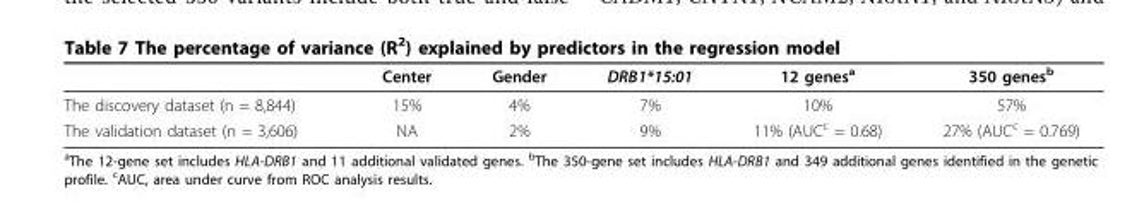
<table><thead><tr><td></td><td>Center</td><td>Gender</td><td>DRB1*15:01</td><td>12 genes<sup>a</sup></td><td>350 genes<sup>b</sup></td></tr></thead><tbody><tr><td>The discovery dataset (n = 8,844)</td><td>15%</td><td>4%</td><td>7%</td><td>10%</td><td>57%</td></tr><tr><td>The validation dataset (n = 3,606)</td><td>NA</td><td>2%</td><td>9%</td><td>11% (AUC<sup>c</sup> = 0.68)</td><td>27% (AUC<sup>c</sup> = 0.769)</td></tr></tbody></table>